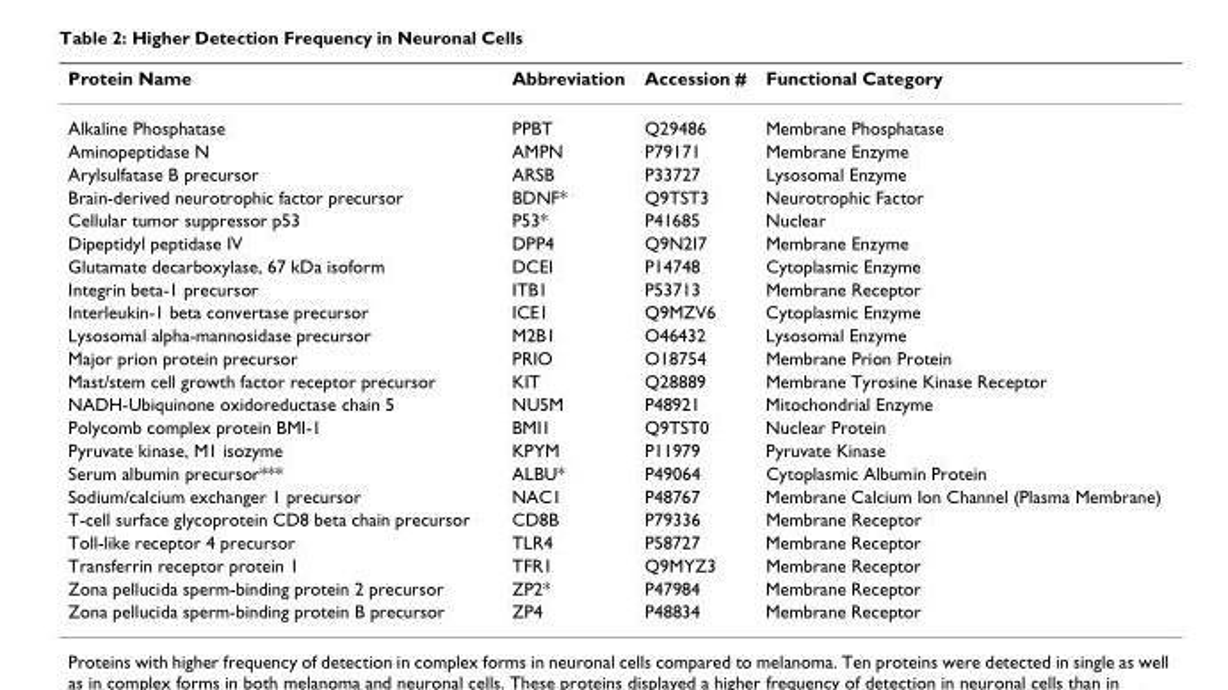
<table><thead><tr><td>Protein Name</td><td>Abbreviation</td><td>Accession #</td><td>Functional Category</td></tr></thead><tbody><tr><td>Alkaline Phosphatase</td><td>PPBT</td><td>Q29486</td><td>Membrane Phosphatase</td></tr><tr><td>Aminopeptidase N</td><td>AMPN</td><td>P79171</td><td>Membrane Enzyme</td></tr><tr><td>Arylsulfatase B precursor</td><td>ARSB</td><td>P33727</td><td>Lysosomal Enzyme</td></tr><tr><td>Brain-derived neurotrophic factor precursor</td><td>BDNF*</td><td>Q9TST3</td><td>Neurotrophic Factor</td></tr><tr><td>Cellular tumor suppressor p53</td><td>P53*</td><td>P41685</td><td>Nuclear</td></tr><tr><td>Dipeptidyl peptidase IV</td><td>DPP4</td><td>Q9N2I7</td><td>Membrane Enzyme</td></tr><tr><td>Glutamate decarboxylase, 67 kDa isoform</td><td>DCEI</td><td>P14748</td><td>Cytoplasmic Enzyme</td></tr><tr><td>Integrin beta-1 precursor</td><td>ITB1</td><td>P53713</td><td>Membrane Receptor</td></tr><tr><td>Interleukin-1 beta convertase precursor</td><td>ICE1</td><td>Q9MZV6</td><td>Cytoplasmic Enzyme</td></tr><tr><td>Lysosomal alpha-mannosidase precursor</td><td>M2B1</td><td>O46432</td><td>Lysosomal Enzyme</td></tr><tr><td>Major prion protein precursor</td><td>PRIO</td><td>O18754</td><td>Membrane Prion Protein</td></tr><tr><td>Mast/stem cell growth factor receptor precursor</td><td>KIT</td><td>Q28889</td><td>Membrane Tyrosine Kinase Receptor</td></tr><tr><td>NADH-Ubiquinone oxidoreductase chain 5</td><td>NU5M</td><td>P48921</td><td>Mitochondrial Enzyme</td></tr><tr><td>Polycomb complex protein BMI-1</td><td>BMI1</td><td>Q9TST0</td><td>Nuclear Protein</td></tr><tr><td>Pyruvate kinase, M1 isozyme</td><td>KPYM</td><td>P11979</td><td>Pyruvate Kinase</td></tr><tr><td>Serum albumin precursor***</td><td>ALBU*</td><td>P49064</td><td>Cytoplasmic Albumin Protein</td></tr><tr><td>Sodium/calcium exchanger 1 precursor</td><td>NAC1</td><td>P48767</td><td>Membrane Calcium Ion Channel (Plasma Membrane)</td></tr><tr><td>T-cell surface glycoprotein CD8 beta chain precursor</td><td>CD8B</td><td>P79336</td><td>Membrane Receptor</td></tr><tr><td>Toll-like receptor 4 precursor</td><td>TLR4</td><td>P58727</td><td>Membrane Receptor</td></tr><tr><td>Transferrin receptor protein 1</td><td>TFR1</td><td>Q9MYZ3</td><td>Membrane Receptor</td></tr><tr><td>Zona pellucida sperm-binding protein 2 precursor</td><td>ZP2*</td><td>P47984</td><td>Membrane Receptor</td></tr><tr><td>Zona pellucida sperm-binding protein B precursor</td><td>ZP4</td><td>P48834</td><td>Membrane Receptor</td></tr></tbody></table>